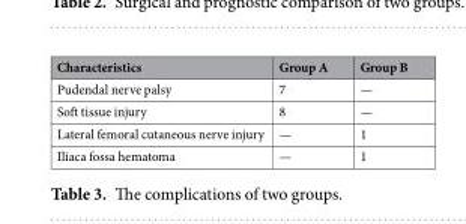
<table><thead><tr><td>Characteristics</td><td>Group A</td><td>Group B</td></tr></thead><tbody><tr><td>Pudendal nerve palsy</td><td>7</td><td>—</td></tr><tr><td>Soft tissue injury</td><td>8</td><td>—</td></tr><tr><td>Lateral femoral cutaneous nerve injury</td><td>—</td><td>1</td></tr><tr><td>Iliaca fossa hematoma</td><td>—</td><td>1</td></tr></tbody></table>